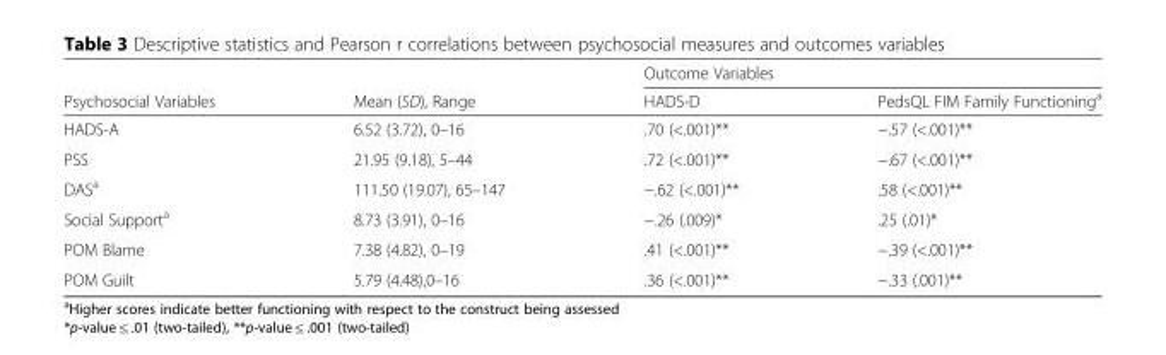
<table><thead><tr><td rowspan="2">Psychosocial Variables</td><td rowspan="2">Mean (SD), Range</td><td colspan="2">Outcome Variables</td></tr><tr><td>HADS-D</td><td>PedsQL FIM Family Functioning<sup>a</sup></td></tr></thead><tbody><tr><td>HADS-A</td><td>6.52 (3.72), 0–16</td><td>.70 (&lt;.001)**</td><td>−.57 (&lt;.001)**</td></tr><tr><td>PSS</td><td>21.95 (9.18), 5–44</td><td>.72 (&lt;.001)**</td><td>−.67 (&lt;.001)**</td></tr><tr><td>DAS<sup>a</sup></td><td>111.50 (19.07), 65–147</td><td>−.62 (&lt;.001)**</td><td>.58 (&lt;.001)**</td></tr><tr><td>Social Support<sup>a</sup></td><td>8.73 (3.91), 0–16</td><td>−.26 (.009)*</td><td>.25 (.01)*</td></tr><tr><td>POM Blame</td><td>7.38 (4.82), 0–19</td><td>.41 (&lt;.001)**</td><td>−.39 (&lt;.001)**</td></tr><tr><td>POM Guilt</td><td>5.79 (4.48),0–16</td><td>.36 (&lt;.001)**</td><td>−.33 (.001)**</td></tr></tbody></table>